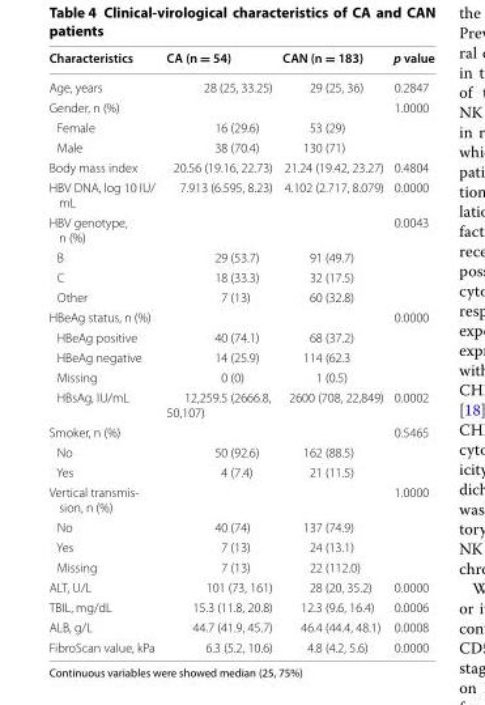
<table><thead><tr><td>Characteristics</td><td>CA (n = 54)</td><td>CAN (n = 183)</td><td>p value</td></tr></thead><tbody><tr><td>Age, years</td><td>28 (25, 33.25)</td><td>29 (25, 36)</td><td>0.2847</td></tr><tr><td>Gender, n (%)</td><td></td><td></td><td>1.0000</td></tr><tr><td>Female</td><td>16 (29.6)</td><td>53 (29)</td><td></td></tr><tr><td>Male</td><td>38 (70.4)</td><td>130 (71)</td><td></td></tr><tr><td>Body mass index</td><td>20.56 (19.16, 22.73)</td><td>21.24 (19.42, 23.27)</td><td>0.4804</td></tr><tr><td>HBV DNA, log 10 IU/ mL</td><td>7.913 (6.595, 8.23)</td><td>4.102 (2.717, 8.079)</td><td>0.0000</td></tr><tr><td>HBV genotype, n (%)</td><td></td><td></td><td>0.0043</td></tr><tr><td>B</td><td>29 (53.7)</td><td>91 (49.7)</td><td></td></tr><tr><td>C</td><td>18 (33.3)</td><td>32 (17.5)</td><td></td></tr><tr><td>Other</td><td>7 (13)</td><td>60 (32.8)</td><td></td></tr><tr><td>HBeAg status, n (%)</td><td></td><td></td><td>0.0000</td></tr><tr><td>HBeAg positive</td><td>40 (74.1)</td><td>68 (37.2)</td><td></td></tr><tr><td>HBeAg negative</td><td>14 (25.9)</td><td>114 (62.3</td><td></td></tr><tr><td>Missing</td><td>0 (0)</td><td>1 (0.5)</td><td></td></tr><tr><td>HBsAg, IU/mL</td><td>12,259.5 (2666.8, 50,107)</td><td>2600 (708, 22,849)</td><td>0.0002</td></tr><tr><td>Smoker, n (%)</td><td></td><td></td><td>0.5465</td></tr><tr><td>No</td><td>50 (92.6)</td><td>162 (88.5)</td><td></td></tr><tr><td>Yes</td><td>4 (7.4)</td><td>21 (11.5)</td><td></td></tr><tr><td>Vertical transmis- sion, n (%)</td><td></td><td></td><td>1.0000</td></tr><tr><td>No</td><td>40 (74)</td><td>137 (74.9)</td><td></td></tr><tr><td>Yes</td><td>7 (13)</td><td>24 (13.1)</td><td></td></tr><tr><td>Missing</td><td>7 (13)</td><td>22 (112.0)</td><td></td></tr><tr><td>ALT, U/L</td><td>101 (73, 161)</td><td>28 (20, 35.2)</td><td>0.0000</td></tr><tr><td>TBIL, mg/dL</td><td>15.3 (11.8, 20.8)</td><td>12.3 (9.6, 16.4)</td><td>0.0006</td></tr><tr><td>ALB, g/L</td><td>44.7 (41.9, 45.7)</td><td>46.4 (44.4, 48.1)</td><td>0.0008</td></tr><tr><td>FibroScan value, kPa</td><td>6.3 (5.2, 10.6)</td><td>4.8 (4.2, 5.6)</td><td>0.0000</td></tr></tbody></table>